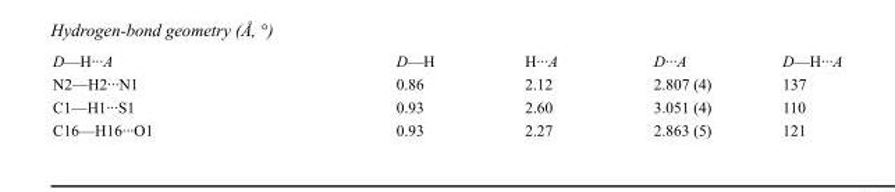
<table><tbody><tr><td>D—H···A</td><td>D—H</td><td>H···A</td><td>D···A</td><td>D—H···A</td></tr><tr><td>N2—H2···N1</td><td>0.86</td><td>2.12</td><td>2.807 (4)</td><td>137</td></tr><tr><td>C1—H1···S1</td><td>0.93</td><td>2.60</td><td>3.051 (4)</td><td>110</td></tr><tr><td>C16—H16···O1</td><td>0.93</td><td>2.27</td><td>2.863 (5)</td><td>121</td></tr></tbody></table>